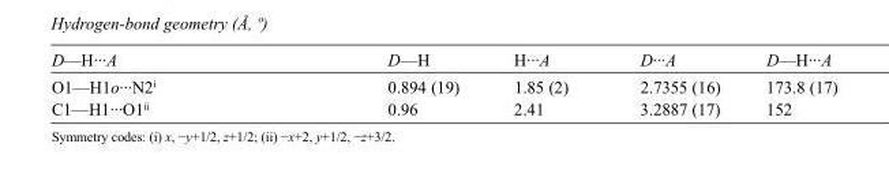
<table><tbody><tr><td>D—H···A</td><td>D—H</td><td>H···A</td><td>D···A</td><td>D—H···A</td></tr><tr><td>O1—H1o···N2<sup>i</sup></td><td>0.894 (19)</td><td>1.85 (2)</td><td>2.7355 (16)</td><td>173.8 (17)</td></tr><tr><td>C1—H1···O1<sup>ii</sup></td><td>0.96</td><td>2.41</td><td>3.2887 (17)</td><td>152</td></tr></tbody></table>